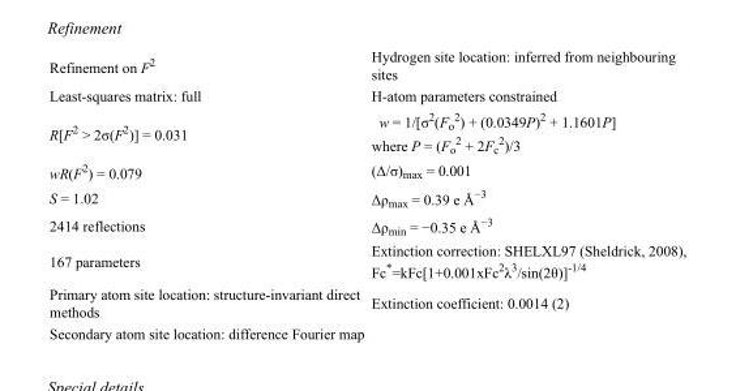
<table><tbody><tr><td>Refinement on F<sup>2</sup></td><td>Hydrogen site location: inferred from neighbouring sites</td></tr><tr><td>Least-squares matrix: full</td><td>H-atom parameters constrained</td></tr><tr><td>R[F<sup>2</sup> &gt; 2σ(F<sup>2</sup>)] = 0.031</td><td>w = 1/[σ<sup>2</sup>(F<sub>o</sub> <sup>2</sup>) + (0.0349P)<sup>2</sup> + 1.1601P] where P = (F<sub>o</sub> <sup>2</sup> + 2F<sub>c</sub> <sup>2</sup>)/3</td></tr><tr><td>wR(F<sup>2</sup>) = 0.079</td><td>(Δ/σ)<sub>max</sub> = 0.001</td></tr><tr><td>S = 1.02</td><td>Δρ<sub>max</sub> = 0.39 e Å<sup>−3</sup></td></tr><tr><td>2414 reflections</td><td>Δρ<sub>min</sub> = −0.35 e Å<sup>−3</sup></td></tr><tr><td>167 parameters</td><td>Extinction correction: SHELXL97 (Sheldrick, 2008), Fc*=kFc[1+0.001xFc<sup>2</sup>λ<sup>3</sup>/sin(2θ)]<sup>-1/4</sup></td></tr><tr><td>Primary atom site location: structure-invariant direct methods</td><td>Extinction coefficient: 0.0014 (2)</td></tr><tr><td>Secondary atom site location: difference Fourier map</td><td></td></tr></tbody></table>